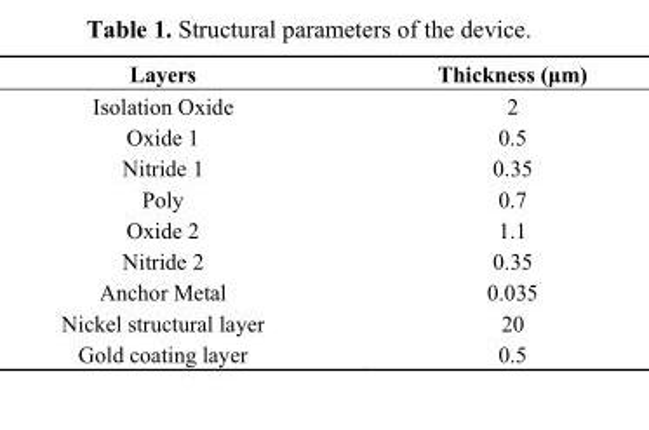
<table><thead><tr><td>Layers</td><td>Thickness (μm)</td></tr></thead><tbody><tr><td>Isolation Oxide</td><td>2</td></tr><tr><td>Oxide 1</td><td>0.5</td></tr><tr><td>Nitride 1</td><td>0.35</td></tr><tr><td>Poly</td><td>0.7</td></tr><tr><td>Oxide 2</td><td>1.1</td></tr><tr><td>Nitride 2</td><td>0.35</td></tr><tr><td>Anchor Metal</td><td>0.035</td></tr><tr><td>Nickel structural layer</td><td>20</td></tr><tr><td>Gold coating layer</td><td>0.5</td></tr></tbody></table>